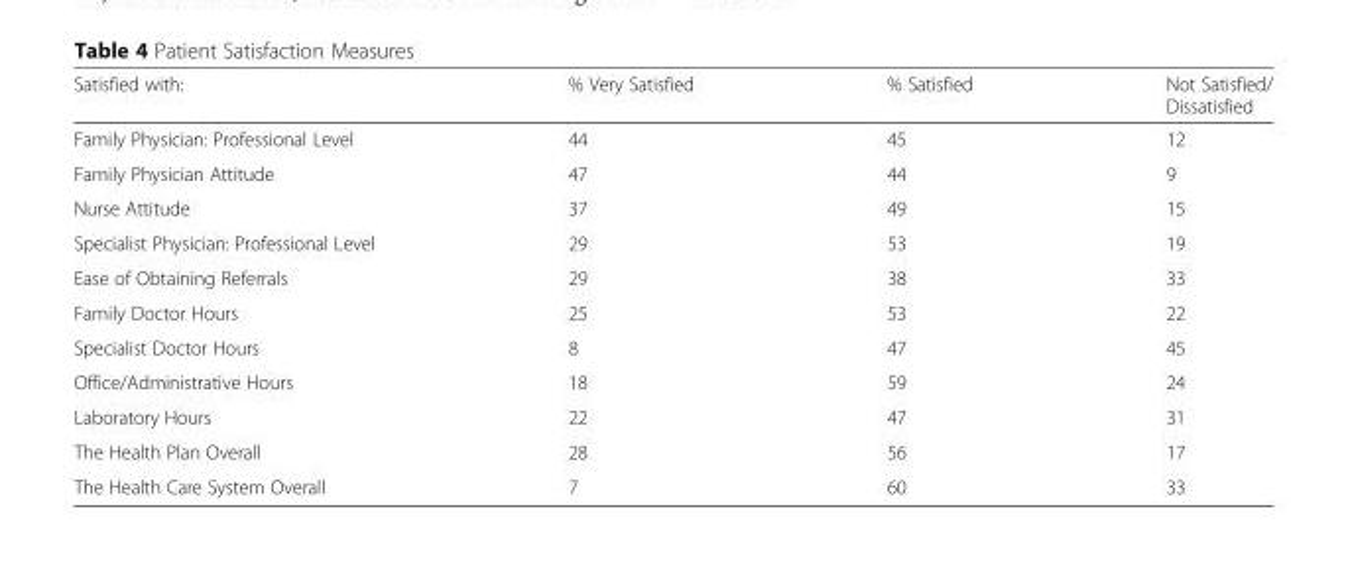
<table><thead><tr><td>Satisfied with:</td><td>% Very Satisfied</td><td>% Satisfied</td><td>Not Satisfied/ Dissatisfied</td></tr></thead><tbody><tr><td>Family Physician: Professional Level</td><td>44</td><td>45</td><td>12</td></tr><tr><td>Family Physician Attitude</td><td>47</td><td>44</td><td>9</td></tr><tr><td>Nurse Attitude</td><td>37</td><td>49</td><td>15</td></tr><tr><td>Specialist Physician: Professional Level</td><td>29</td><td>53</td><td>19</td></tr><tr><td>Ease of Obtaining Referrals</td><td>29</td><td>38</td><td>33</td></tr><tr><td>Family Doctor Hours</td><td>25</td><td>53</td><td>22</td></tr><tr><td>Specialist Doctor Hours</td><td>8</td><td>47</td><td>45</td></tr><tr><td>Office/Administrative Hours</td><td>18</td><td>59</td><td>24</td></tr><tr><td>Laboratory Hours</td><td>22</td><td>47</td><td>31</td></tr><tr><td>The Health Plan Overall</td><td>28</td><td>56</td><td>17</td></tr><tr><td>The Health Care System Overall</td><td>7</td><td>60</td><td>33</td></tr></tbody></table>